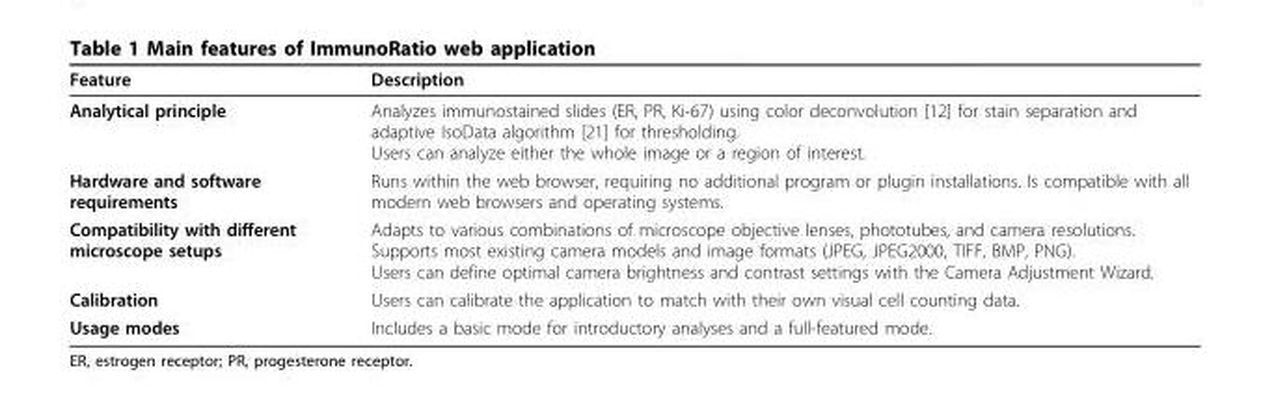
<table><thead><tr><td>Feature</td><td>Description</td></tr></thead><tbody><tr><td>Analytical principle</td><td>Analyzes immunostained slides (ER, PR, Ki-67) using color deconvolution [12] for stain separation and adaptive IsoData algorithm [21] for thresholding. Users can analyze either the whole image or a region of interest.</td></tr><tr><td>Hardware and software requirements</td><td>Runs within the web browser, requiring no additional program or plugin installations. Is compatible with all modern web browsers and operating systems.</td></tr><tr><td>Compatibility with different microscope setups</td><td>Adapts to various combinations of microscope objective lenses, phototubes, and camera resolutions. Supports most existing camera models and image formats (JPEG, JPEG2000, TIFF, BMP, PNG). Users can define optimal camera brightness and contrast settings with the Camera Adjustment Wizard.</td></tr><tr><td>Calibration</td><td>Users can calibrate the application to match with their own visual cell counting data.</td></tr><tr><td>Usage modes</td><td>Includes a basic mode for introductory analyses and a full-featured mode.</td></tr></tbody></table>